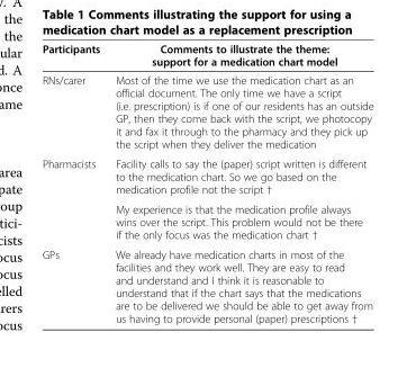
<table><thead><tr><td>Participants</td><td>Comments to illustrate the theme: support for a medication chart model</td></tr></thead><tbody><tr><td>RNs/carer</td><td>Most of the time we use the medication chart as an official document. The only time we have a script (i.e. prescription) is if one of our residents has an outside GP, then they come back with the script, we photocopy it and fax it through to the pharmacy and they pick up the script when they deliver the medication</td></tr><tr><td rowspan="2">Pharmacists</td><td>Facility calls to say the (paper) script written is different to the medication chart. So we go based on the medication profile not the script †</td></tr><tr><td>My experience is that the medication profile always wins over the script. This problem would not be there if the only focus was the medication chart †</td></tr><tr><td>GPs</td><td>We already have medication charts in most of the facilities and they work well. They are easy to read and understand and I think it is reasonable to understand that if the chart says that the medications are to be delivered we should be able to get away from us having to provide personal (paper) prescriptions †</td></tr></tbody></table>